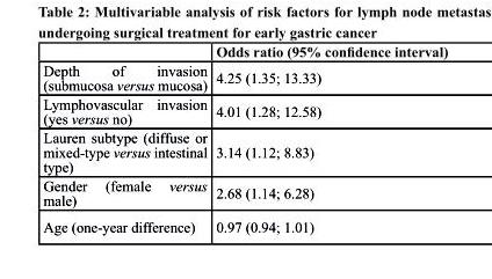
<table><thead><tr><td></td><td>Odds ratio (95% confidence interval)</td></tr></thead><tbody><tr><td>Depth of invasion (submucosa versus mucosa)</td><td>4.25 (1.35; 13.33)</td></tr><tr><td>Lymphovascular invasion (yes versus no)</td><td>4.01 (1.28; 12.58)</td></tr><tr><td>Lauren subtype (diffuse or mixed-type versus intestinal type)</td><td>3.14 (1.12; 8.83)</td></tr><tr><td>Gender (female versus male)</td><td>2.68 (1.14; 6.28)</td></tr><tr><td>Age (one-year difference)</td><td>0.97 (0.94; 1.01)</td></tr></tbody></table>